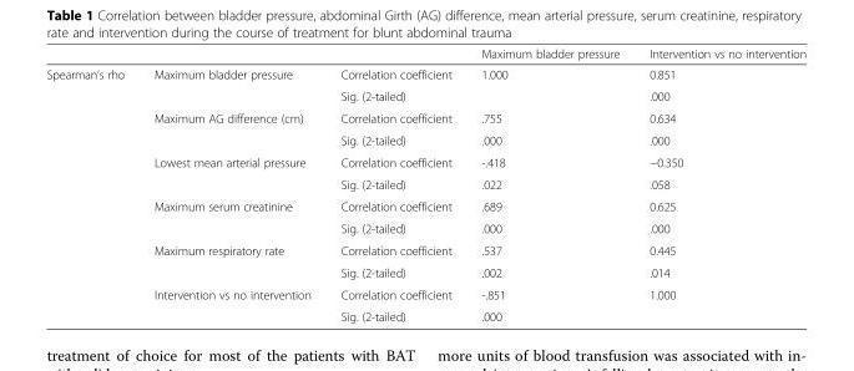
<table><thead><tr><td></td><td></td><td></td><td>Maximum bladder pressure</td><td>Intervention vs no intervention</td></tr></thead><tbody><tr><td rowspan="12">Spearman’s rho</td><td rowspan="2">Maximum bladder pressure</td><td>Correlation coefficient</td><td>1.000</td><td>0.851</td></tr><tr><td>Sig. (2-tailed)</td><td></td><td>.000</td></tr><tr><td rowspan="2">Maximum AG difference (cm)</td><td>Correlation coefficient</td><td>.755</td><td>0.634</td></tr><tr><td>Sig. (2-tailed)</td><td>.000</td><td>.000</td></tr><tr><td rowspan="2">Lowest mean arterial pressure</td><td>Correlation coefficient</td><td>-.418</td><td>−0.350</td></tr><tr><td>Sig. (2-tailed)</td><td>.022</td><td>.058</td></tr><tr><td rowspan="2">Maximum serum creatinine</td><td>Correlation coefficient</td><td>.689</td><td>0.625</td></tr><tr><td>Sig. (2-tailed)</td><td>.000</td><td>.000</td></tr><tr><td rowspan="2">Maximum respiratory rate</td><td>Correlation coefficient</td><td>.537</td><td>0.445</td></tr><tr><td>Sig. (2-tailed)</td><td>.002</td><td>.014</td></tr><tr><td rowspan="2">Intervention vs no intervention</td><td>Correlation coefficient</td><td>-.851</td><td>1.000</td></tr><tr><td>Sig. (2-tailed)</td><td>.000</td><td></td></tr></tbody></table>